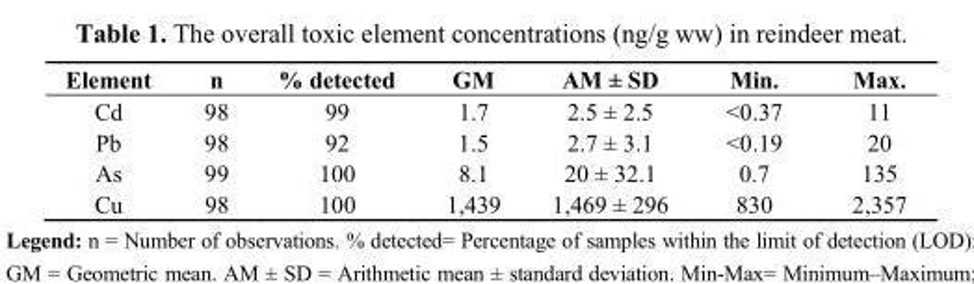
<table><thead><tr><td>Element</td><td>n</td><td>% detected</td><td>GM</td><td>AM ± SD</td><td>Min.</td><td>Max.</td></tr></thead><tbody><tr><td>Cd</td><td>98</td><td>99</td><td>1.7</td><td>2.5 ± 2.5</td><td>&lt;0.37</td><td>11</td></tr><tr><td>Pb</td><td>98</td><td>92</td><td>1.5</td><td>2.7 ± 3.1</td><td>&lt;0.19</td><td>20</td></tr><tr><td>As</td><td>99</td><td>100</td><td>8.1</td><td>20 ± 32.1</td><td>0.7</td><td>135</td></tr><tr><td>Cu</td><td>98</td><td>100</td><td>1,439</td><td>1,469 ± 296</td><td>830</td><td>2,357</td></tr></tbody></table>